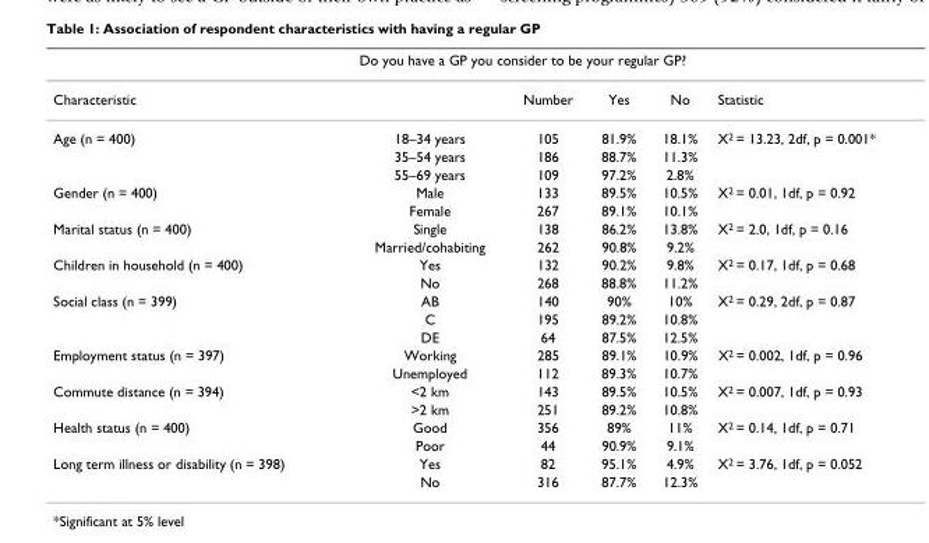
<table><thead><tr><td rowspan="2">Characteristic</td><td colspan="5">Do you have a GP you consider to be your regular GP?</td></tr><tr><td></td><td>Number</td><td>Yes</td><td>No</td><td>Statistic</td></tr></thead><tbody><tr><td rowspan="3">Age (n = 400)</td><td>18–34 years</td><td>105</td><td>81.9%</td><td>18.1%</td><td>X<sup>2</sup> = 13.23, 2df, p = 0.001*</td></tr><tr><td>35–54 years</td><td>186</td><td>88.7%</td><td>11.3%</td><td></td></tr><tr><td>55–69 years</td><td>109</td><td>97.2%</td><td>2.8%</td><td></td></tr><tr><td rowspan="2">Gender (n = 400)</td><td>Male</td><td>133</td><td>89.5%</td><td>10.5%</td><td>X<sup>2</sup> = 0.01, 1df, p = 0.92</td></tr><tr><td>Female</td><td>267</td><td>89.1%</td><td>10.1%</td><td></td></tr><tr><td rowspan="2">Marital status (n = 400)</td><td>Single</td><td>138</td><td>86.2%</td><td>13.8%</td><td>X<sup>2</sup> = 2.0, 1df, p = 0.16</td></tr><tr><td>Married/cohabiting</td><td>262</td><td>90.8%</td><td>9.2%</td><td></td></tr><tr><td rowspan="2">Children in household (n = 400)</td><td>Yes</td><td>132</td><td>90.2%</td><td>9.8%</td><td>X<sup>2</sup> = 0.17, 1df, p = 0.68</td></tr><tr><td>No</td><td>268</td><td>88.8%</td><td>11.2%</td><td></td></tr><tr><td rowspan="3">Social class (n = 399)</td><td>AB</td><td>140</td><td>90%</td><td>10%</td><td>X<sup>2</sup> = 0.29, 2df, p = 0.87</td></tr><tr><td>C</td><td>195</td><td>89.2%</td><td>10.8%</td><td></td></tr><tr><td>DE</td><td>64</td><td>87.5%</td><td>12.5%</td><td></td></tr><tr><td rowspan="2">Employment status (n = 397)</td><td>Working</td><td>285</td><td>89.1%</td><td>10.9%</td><td>X<sup>2</sup> = 0.002, 1df, p = 0.96</td></tr><tr><td>Unemployed</td><td>112</td><td>89.3%</td><td>10.7%</td><td></td></tr><tr><td rowspan="2">Commute distance (n = 394)</td><td>&lt;2 km</td><td>143</td><td>89.5%</td><td>10.5%</td><td>X<sup>2</sup> = 0.007, 1df, p = 0.93</td></tr><tr><td>&gt;2 km</td><td>251</td><td>89.2%</td><td>10.8%</td><td></td></tr><tr><td rowspan="2">Health status (n = 400)</td><td>Good</td><td>356</td><td>89%</td><td>11%</td><td>X<sup>2</sup> = 0.14, 1df, p = 0.71</td></tr><tr><td>Poor</td><td>44</td><td>90.9%</td><td>9.1%</td><td></td></tr><tr><td rowspan="2">Long term illness or disability (n = 398)</td><td>Yes</td><td>82</td><td>95.1%</td><td>4.9%</td><td>X<sup>2</sup> = 3.76, 1df, p = 0.052</td></tr><tr><td>No</td><td>316</td><td>87.7%</td><td>12.3%</td><td></td></tr></tbody></table>